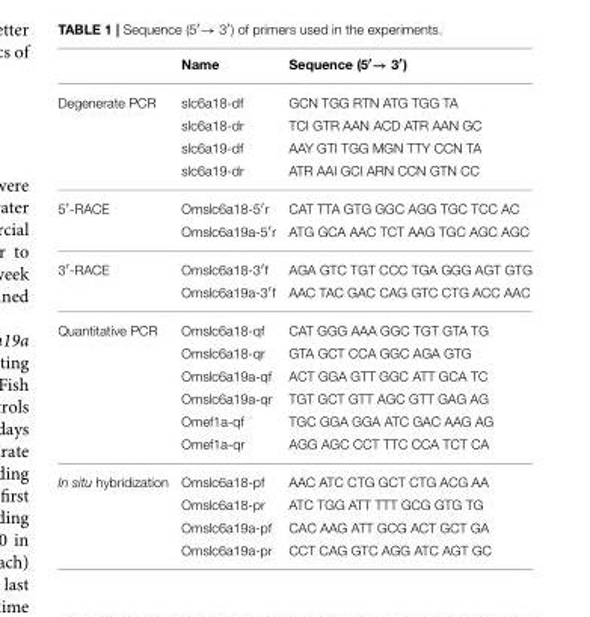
<table><thead><tr><td></td><td>Name</td><td>Sequence (5′→ 3′)</td></tr></thead><tbody><tr><td rowspan="4">Degenerate PCR</td><td>slc6a18-df</td><td>GCN TGG RTN ATG TGG TA</td></tr><tr><td>slc6a18-dr</td><td>TCI GTR AAN ACD ATR AAN GC</td></tr><tr><td>slc6a19-df</td><td>AAY GTI TGG MGN TTY CCN TA</td></tr><tr><td>slc6a19-dr</td><td>ATR AAI GCI ARN CCN GTN CC</td></tr><tr><td rowspan="2">5′-RACE</td><td>Omslc6a18-5′r</td><td>CAT TTA GTG GGC AGG TGC TCC AC</td></tr><tr><td>Omslc6a19a-5′r</td><td>ATG GCA AAC TCT AAG TGC AGC AGC</td></tr><tr><td rowspan="2">3′-RACE</td><td>Omslc6a18-3′f</td><td>AGA GTC TGT CCC TGA GGG AGT GTG</td></tr><tr><td>Omslc6a19a-3′f</td><td>AAC TAC GAC CAG GTC CTG ACC AAC</td></tr><tr><td rowspan="6">Quantitative PCR</td><td>Omslc6a18-qf</td><td>CAT GGG AAA GGC TGT GTA TG</td></tr><tr><td>Omslc6a18-qr</td><td>GTA GCT CCA GGC AGA GTG</td></tr><tr><td>Omslc6a19a-qf</td><td>ACT GGA GTT GGC ATT GCA TC</td></tr><tr><td>Omslc6a19a-qr</td><td>TGT GCT GTT AGC GTT GAG AG</td></tr><tr><td>Omef1a-qf</td><td>TGC GGA GGA ATC GAC AAG AG</td></tr><tr><td>Omef1a-qr</td><td>AGG AGC CCT TTC CCA TCT CA</td></tr><tr><td rowspan="4">In situ hybridization</td><td>Omslc6a18-pf</td><td>AAC ATC CTG GCT CTG ACG AA</td></tr><tr><td>Omslc6a18-pr</td><td>ATC TGG ATT TTT GCG GTG TG</td></tr><tr><td>Omslc6a19a-pf</td><td>CAC AAG ATT GCG ACT GCT GA</td></tr><tr><td>Omslc6a19a-pr</td><td>CCT CAG GTC AGG ATC AGT GC</td></tr></tbody></table>